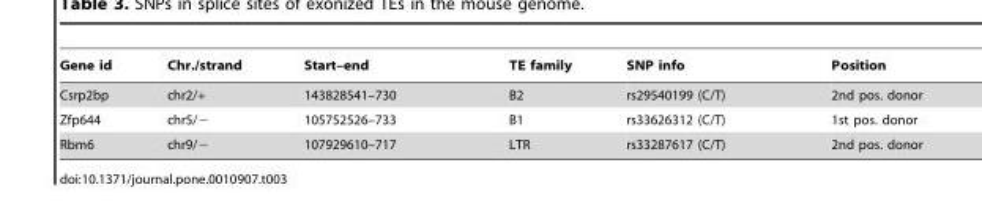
<table><thead><tr><td>Gene id</td><td>Chr./strand</td><td>Start–end</td><td>TE family</td><td>SNP info</td><td>Position</td></tr></thead><tbody><tr><td>Csrp2bp</td><td>chr2/+</td><td>143828541–730</td><td>B2</td><td>rs29540199 (C/T)</td><td>2nd pos. donor</td></tr><tr><td>Zfp644</td><td>chr5/−</td><td>105752526–733</td><td>B1</td><td>rs33626312 (C/T)</td><td>1st pos. donor</td></tr><tr><td>Rbm6</td><td>chr9/−</td><td>107929610–717</td><td>LTR</td><td>rs33287617 (C/T)</td><td>2nd pos. donor</td></tr></tbody></table>